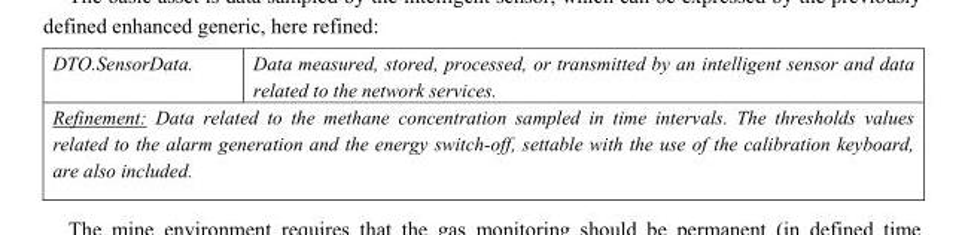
<table><tbody><tr><td>DTO.SensorData.</td><td>Data measured, stored, processed, or transmitted by an intelligent sensor and data related to the network services.</td></tr><tr><td colspan="2">Refinement: Data related to the methane concentration sampled in time intervals. The thresholds values related to the alarm generation and the energy switch-off, settable with the use of the calibration keyboard, are also included.</td></tr></tbody></table>